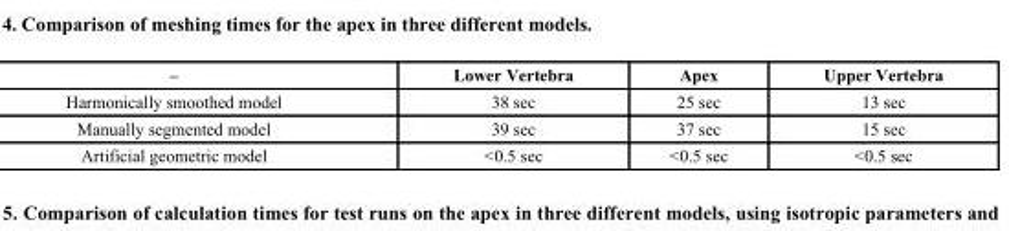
<table><thead><tr><td>–</td><td>Lower Vertebra</td><td>Apex</td><td>Upper Vertebra</td></tr></thead><tbody><tr><td>Harmonically smoothed model</td><td>38 sec</td><td>25 sec</td><td>13 sec</td></tr><tr><td>Manually segmented model</td><td>39 sec</td><td>37 sec</td><td>15 sec</td></tr><tr><td>Artificial geometric model</td><td>&lt;0.5 sec</td><td>&lt;0.5 sec</td><td>&lt;0.5 sec</td></tr></tbody></table>